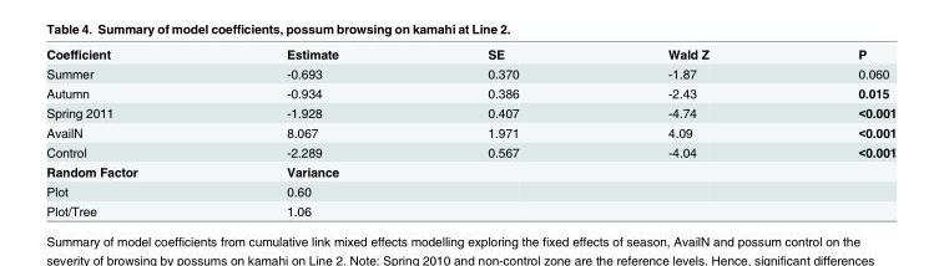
<table><tbody><tr><td>Coefficient</td><td>Estimate</td><td>SE</td><td>Wald Z</td><td>P</td></tr><tr><td>Summer</td><td>-0.693</td><td>0.370</td><td>-1.87</td><td>0.060</td></tr><tr><td>Autumn</td><td>-0.934</td><td>0.386</td><td>-2.43</td><td>0.015</td></tr><tr><td>Spring 2011</td><td>-1.928</td><td>0.407</td><td>-4.74</td><td>&lt;0.001</td></tr><tr><td>AvailN</td><td>8.067</td><td>1.971</td><td>4.09</td><td>&lt;0.001</td></tr><tr><td>Control</td><td>-2.289</td><td>0.567</td><td>-4.04</td><td>&lt;0.001</td></tr><tr><td>Random Factor</td><td>Variance</td><td></td><td></td><td></td></tr><tr><td>Plot</td><td>0.60</td><td></td><td></td><td></td></tr><tr><td>Plot/Tree</td><td>1.06</td><td></td><td></td><td></td></tr></tbody></table>